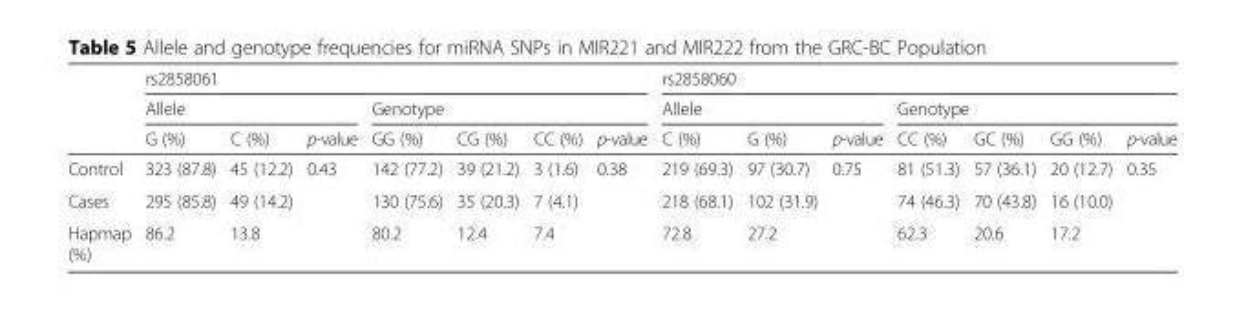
<table><thead><tr><td rowspan="3"></td><td colspan="7">rs2858061</td><td colspan="7">rs2858060</td></tr><tr><td colspan="3">Allele</td><td colspan="4">Genotype</td><td colspan="3">Allele</td><td colspan="4">Genotype</td></tr><tr><td>G (%)</td><td>C (%)</td><td>p-value</td><td>GG (%)</td><td>CG (%)</td><td>CC (%)</td><td>p-value</td><td>C (%)</td><td>G (%)</td><td>p-value</td><td>CC (%)</td><td>GC (%)</td><td>GG (%)</td><td>p-value</td></tr></thead><tbody><tr><td>Control</td><td>323 (87.8)</td><td>45 (12.2)</td><td rowspan="2">0.43</td><td>142 (77.2)</td><td>39 (21.2)</td><td>3 (1.6)</td><td rowspan="2">0.38</td><td>219 (69.3)</td><td>97 (30.7)</td><td rowspan="2">0.75</td><td>81 (51.3)</td><td>57 (36.1)</td><td>20 (12.7)</td><td rowspan="2">0.35</td></tr><tr><td>Cases</td><td>295 (85.8)</td><td>49 (14.2)</td><td>130 (75.6)</td><td>35 (20.3)</td><td>7 (4.1)</td><td>218 (68.1)</td><td>102 (31.9)</td><td>74 (46.3)</td><td>70 (43.8)</td><td>16 (10.0)</td></tr><tr><td>Hapmap (%)</td><td>86.2</td><td>13.8</td><td></td><td>80.2</td><td>12.4</td><td>7.4</td><td></td><td>72.8</td><td>27.2</td><td></td><td>62.3</td><td>20.6</td><td>17.2</td><td></td></tr></tbody></table>